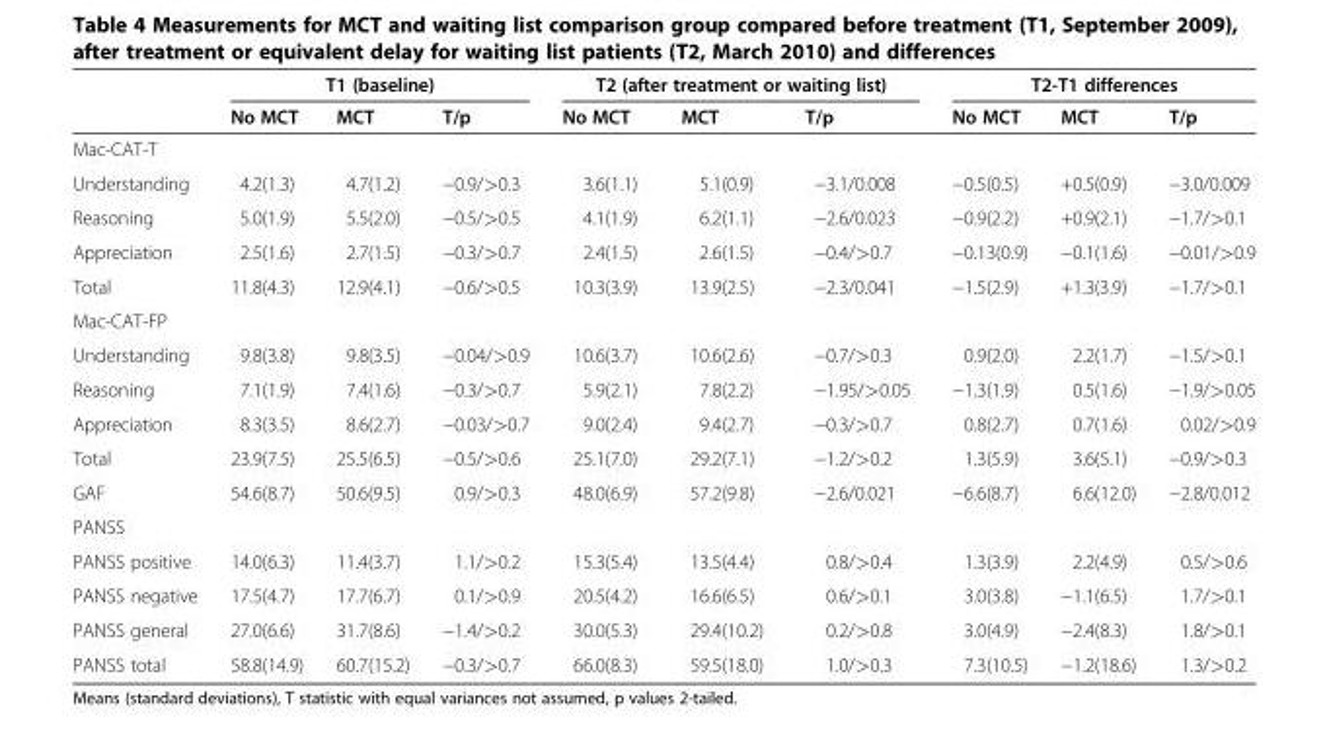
<table><thead><tr><td rowspan="2"></td><td colspan="3">T1 (baseline)</td><td colspan="3">T2 (after treatment or waiting list)</td><td colspan="3">T2-T1 differences</td></tr><tr><td>No MCT</td><td>MCT</td><td>T/p</td><td>No MCT</td><td>MCT</td><td>T/p</td><td>No MCT</td><td>MCT</td><td>T/p</td></tr></thead><tbody><tr><td colspan="10">Mac-CAT-T</td></tr><tr><td>Understanding</td><td>4.2(1.3)</td><td>4.7(1.2)</td><td>−0.9/&gt;0.3</td><td>3.6(1.1)</td><td>5.1(0.9)</td><td>−3.1/0.008</td><td>−0.5(0.5)</td><td>+0.5(0.9)</td><td>−3.0/0.009</td></tr><tr><td>Reasoning</td><td>5.0(1.9)</td><td>5.5(2.0)</td><td>−0.5/&gt;0.5</td><td>4.1(1.9)</td><td>6.2(1.1)</td><td>−2.6/0.023</td><td>−0.9(2.2)</td><td>+0.9(2.1)</td><td>−1.7/&gt;0.1</td></tr><tr><td>Appreciation</td><td>2.5(1.6)</td><td>2.7(1.5)</td><td>−0.3/&gt;0.7</td><td>2.4(1.5)</td><td>2.6(1.5)</td><td>−0.4/&gt;0.7</td><td>−0.13(0.9)</td><td>−0.1(1.6)</td><td>−0.01/&gt;0.9</td></tr><tr><td>Total</td><td>11.8(4.3)</td><td>12.9(4.1)</td><td>−0.6/&gt;0.5</td><td>10.3(3.9)</td><td>13.9(2.5)</td><td>−2.3/0.041</td><td>−1.5(2.9)</td><td>+1.3(3.9)</td><td>−1.7/&gt;0.1</td></tr><tr><td colspan="10">Mac-CAT-FP</td></tr><tr><td>Understanding</td><td>9.8(3.8)</td><td>9.8(3.5)</td><td>−0.04/&gt;0.9</td><td>10.6(3.7)</td><td>10.6(2.6)</td><td>−0.7/&gt;0.3</td><td>0.9(2.0)</td><td>2.2(1.7)</td><td>−1.5/&gt;0.1</td></tr><tr><td>Reasoning</td><td>7.1(1.9)</td><td>7.4(1.6)</td><td>−0.3/&gt;0.7</td><td>5.9(2.1)</td><td>7.8(2.2)</td><td>−1.95/&gt;0.05</td><td>−1.3(1.9)</td><td>0.5(1.6)</td><td>−1.9/&gt;0.05</td></tr><tr><td>Appreciation</td><td>8.3(3.5)</td><td>8.6(2.7)</td><td>−0.03/&gt;0.7</td><td>9.0(2.4)</td><td>9.4(2.7)</td><td>−0.3/&gt;0.7</td><td>0.8(2.7)</td><td>0.7(1.6)</td><td>0.02/&gt;0.9</td></tr><tr><td>Total</td><td>23.9(7.5)</td><td>25.5(6.5)</td><td>−0.5/&gt;0.6</td><td>25.1(7.0)</td><td>29.2(7.1)</td><td>−1.2/&gt;0.2</td><td>1.3(5.9)</td><td>3.6(5.1)</td><td>−0.9/&gt;0.3</td></tr><tr><td>GAF</td><td>54.6(8.7)</td><td>50.6(9.5)</td><td>0.9/&gt;0.3</td><td>48.0(6.9)</td><td>57.2(9.8)</td><td>−2.6/0.021</td><td>−6.6(8.7)</td><td>6.6(12.0)</td><td>−2.8/0.012</td></tr><tr><td colspan="10">PANSS</td></tr><tr><td>PANSS positive</td><td>14.0(6.3)</td><td>11.4(3.7)</td><td>1.1/&gt;0.2</td><td>15.3(5.4)</td><td>13.5(4.4)</td><td>0.8/&gt;0.4</td><td>1.3(3.9)</td><td>2.2(4.9)</td><td>0.5/&gt;0.6</td></tr><tr><td>PANSS negative</td><td>17.5(4.7)</td><td>17.7(6.7)</td><td>0.1/&gt;0.9</td><td>20.5(4.2)</td><td>16.6(6.5)</td><td>0.6/&gt;0.1</td><td>3.0(3.8)</td><td>−1.1(6.5)</td><td>1.7/&gt;0.1</td></tr><tr><td>PANSS general</td><td>27.0(6.6)</td><td>31.7(8.6)</td><td>−1.4/&gt;0.2</td><td>30.0(5.3)</td><td>29.4(10.2)</td><td>0.2/&gt;0.8</td><td>3.0(4.9)</td><td>−2.4(8.3)</td><td>1.8/&gt;0.1</td></tr><tr><td>PANSS total</td><td>58.8(14.9)</td><td>60.7(15.2)</td><td>−0.3/&gt;0.7</td><td>66.0(8.3)</td><td>59.5(18.0)</td><td>1.0/&gt;0.3</td><td>7.3(10.5)</td><td>−1.2(18.6)</td><td>1.3/&gt;0.2</td></tr></tbody></table>